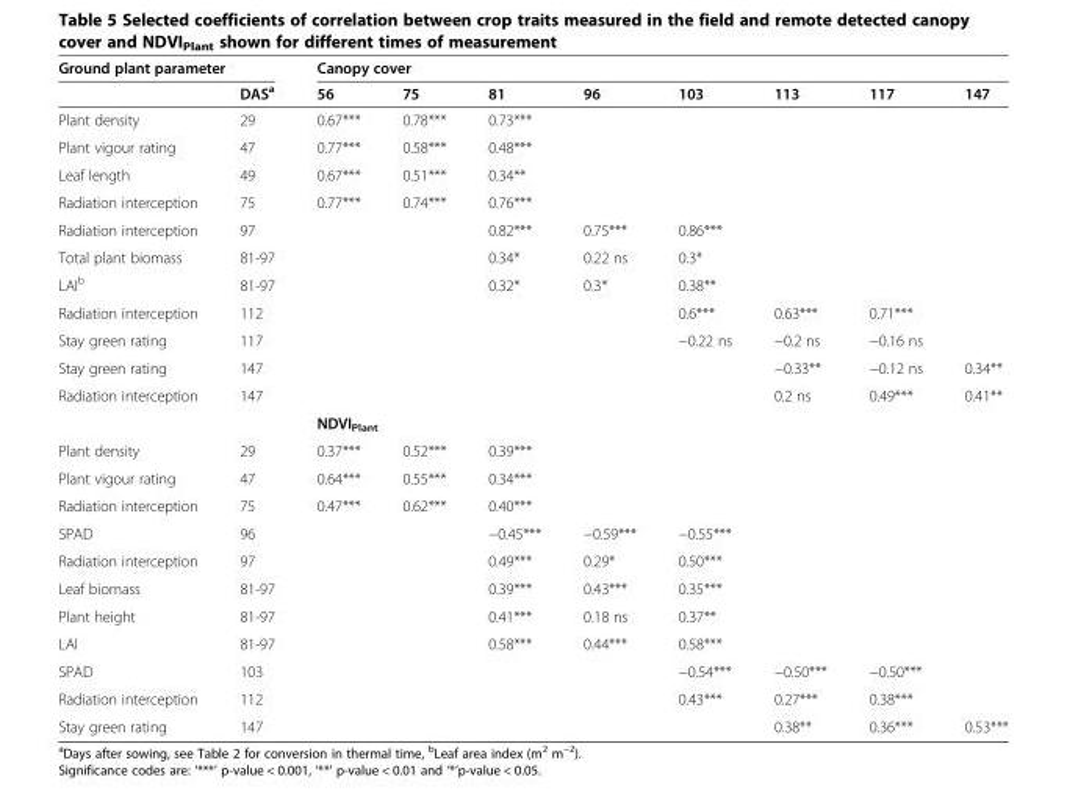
<table><thead><tr><td colspan="2">Ground plant parameter</td><td colspan="8">Canopy cover</td></tr><tr><td></td><td>DAS<sup>a</sup></td><td>56</td><td>75</td><td>81</td><td>96</td><td>103</td><td>113</td><td>117</td><td>147</td></tr></thead><tbody><tr><td>Plant density</td><td>29</td><td>0.67***</td><td>0.78***</td><td>0.73***</td><td></td><td></td><td></td><td></td><td></td></tr><tr><td>Plant vigour rating</td><td>47</td><td>0.77***</td><td>0.58***</td><td>0.48***</td><td></td><td></td><td></td><td></td><td></td></tr><tr><td>Leaf length</td><td>49</td><td>0.67***</td><td>0.51***</td><td>0.34**</td><td></td><td></td><td></td><td></td><td></td></tr><tr><td>Radiation interception</td><td>75</td><td>0.77***</td><td>0.74***</td><td>0.76***</td><td></td><td></td><td></td><td></td><td></td></tr><tr><td>Radiation interception</td><td>97</td><td></td><td></td><td>0.82***</td><td>0.75***</td><td>0.86***</td><td></td><td></td><td></td></tr><tr><td>Total plant biomass</td><td>81-97</td><td></td><td></td><td>0.34*</td><td>0.22 ns</td><td>0.3*</td><td></td><td></td><td></td></tr><tr><td>LAI<sup>b</sup></td><td>81-97</td><td></td><td></td><td>0.32*</td><td>0.3*</td><td>0.38**</td><td></td><td></td><td></td></tr><tr><td>Radiation interception</td><td>112</td><td></td><td></td><td></td><td></td><td>0.6***</td><td>0.63***</td><td>0.71***</td><td></td></tr><tr><td>Stay green rating</td><td>117</td><td></td><td></td><td></td><td></td><td>−0.22 ns</td><td>−0.2 ns</td><td>−0.16 ns</td><td></td></tr><tr><td>Stay green rating</td><td>147</td><td></td><td></td><td></td><td></td><td></td><td>−0.33**</td><td>−0.12 ns</td><td>0.34**</td></tr><tr><td rowspan="2">Radiation interception</td><td>147</td><td></td><td></td><td></td><td></td><td></td><td>0.2 ns</td><td>0.49***</td><td>0.41**</td></tr><tr><td></td><td colspan="2">NDVI<sub>Plant</sub></td><td></td><td></td><td></td><td></td><td></td><td></td></tr><tr><td>Plant density</td><td>29</td><td>0.37***</td><td>0.52***</td><td>0.39***</td><td></td><td></td><td></td><td></td><td></td></tr><tr><td>Plant vigour rating</td><td>47</td><td>0.64***</td><td>0.55***</td><td>0.34***</td><td></td><td></td><td></td><td></td><td></td></tr><tr><td>Radiation interception</td><td>75</td><td>0.47***</td><td>0.62***</td><td>0.40***</td><td></td><td></td><td></td><td></td><td></td></tr><tr><td>SPAD</td><td>96</td><td></td><td></td><td>−0.45***</td><td>−0.59***</td><td>−0.55***</td><td></td><td></td><td></td></tr><tr><td>Radiation interception</td><td>97</td><td></td><td></td><td>0.49***</td><td>0.29*</td><td>0.50***</td><td></td><td></td><td></td></tr><tr><td>Leaf biomass</td><td>81-97</td><td></td><td></td><td>0.39***</td><td>0.43***</td><td>0.35***</td><td></td><td></td><td></td></tr><tr><td>Plant height</td><td>81-97</td><td></td><td></td><td>0.41***</td><td>0.18 ns</td><td>0.37**</td><td></td><td></td><td></td></tr><tr><td>LAI</td><td>81-97</td><td></td><td></td><td>0.58***</td><td>0.44***</td><td>0.58***</td><td></td><td></td><td></td></tr><tr><td>SPAD</td><td>103</td><td></td><td></td><td></td><td></td><td>−0.54***</td><td>−0.50***</td><td>−0.50***</td><td></td></tr><tr><td>Radiation interception</td><td>112</td><td></td><td></td><td></td><td></td><td>0.43***</td><td>0.27***</td><td>0.38***</td><td></td></tr><tr><td>Stay green rating</td><td>147</td><td></td><td></td><td></td><td></td><td></td><td>0.38**</td><td>0.36***</td><td>0.53***</td></tr></tbody></table>